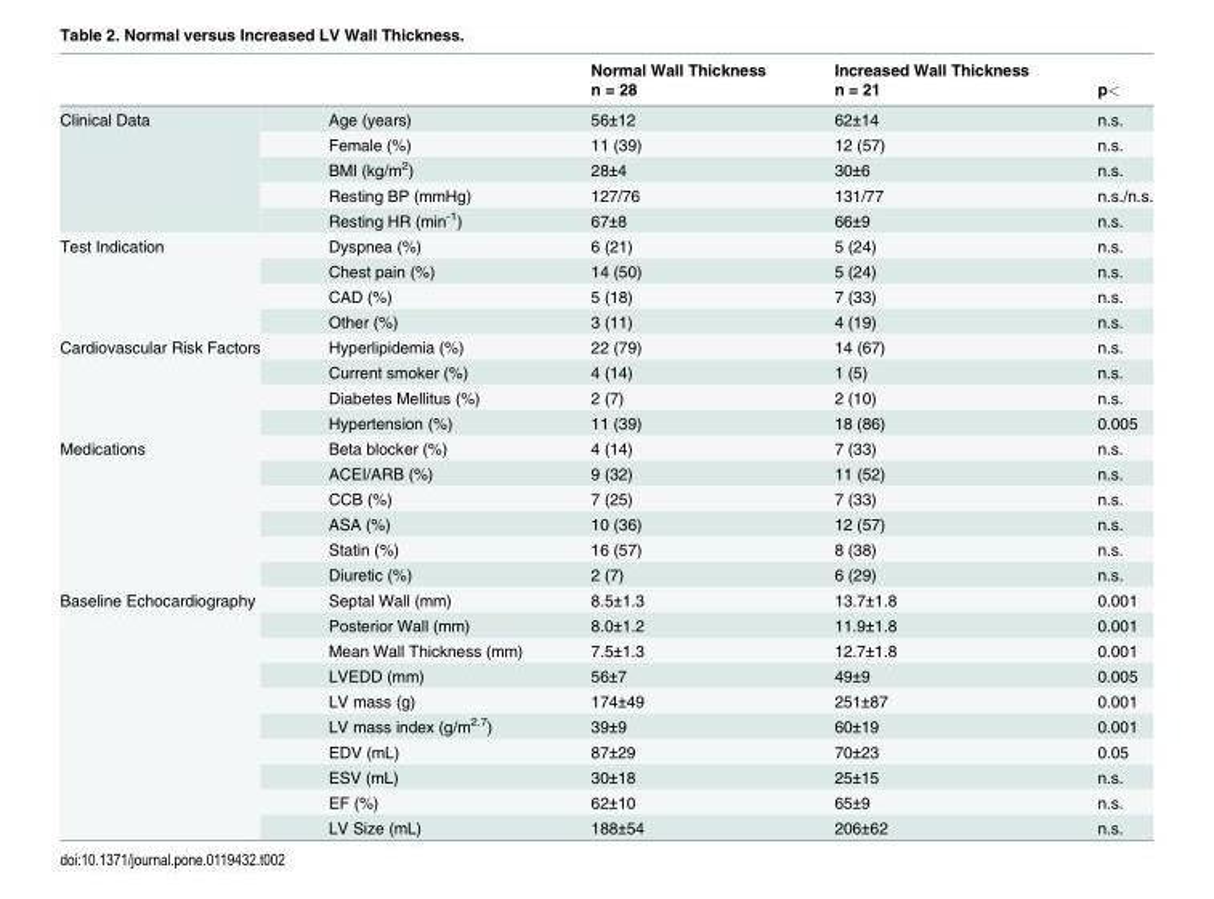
<table><thead><tr><td rowspan="2"></td><td rowspan="2"></td><td rowspan="2">Normal Wall Thickness n = 28</td><td rowspan="2">Increased Wall Thickness n = 21</td><td rowspan="2">p&lt;</td></tr><tr></tr></thead><tbody><tr><td rowspan="5">Clinical Data</td><td>Age (years)</td><td>56±12</td><td>62±14</td><td>n.s.</td></tr><tr><td>Female (%)</td><td>11 (39)</td><td>12 (57)</td><td>n.s.</td></tr><tr><td>BMI (kg/m<sup>2</sup>)</td><td>28±4</td><td>30±6</td><td>n.s.</td></tr><tr><td>Resting BP (mmHg)</td><td>127/76</td><td>131/77</td><td>n.s./n.s.</td></tr><tr><td>Resting HR (min<sup>-1</sup>)</td><td>67±8</td><td>66±9</td><td>n.s.</td></tr><tr><td rowspan="4">Test Indication</td><td>Dyspnea (%)</td><td>6 (21)</td><td>5 (24)</td><td>n.s.</td></tr><tr><td>Chest pain (%)</td><td>14 (50)</td><td>5 (24)</td><td>n.s.</td></tr><tr><td>CAD (%)</td><td>5 (18)</td><td>7 (33)</td><td>n.s.</td></tr><tr><td>Other (%)</td><td>3 (11)</td><td>4 (19)</td><td>n.s.</td></tr><tr><td rowspan="4">Cardiovascular Risk Factors</td><td>Hyperlipidemia (%)</td><td>22 (79)</td><td>14 (67)</td><td>n.s.</td></tr><tr><td>Current smoker (%)</td><td>4 (14)</td><td>1 (5)</td><td>n.s.</td></tr><tr><td>Diabetes Mellitus (%)</td><td>2 (7)</td><td>2 (10)</td><td>n.s.</td></tr><tr><td>Hypertension (%)</td><td>11 (39)</td><td>18 (86)</td><td>0.005</td></tr><tr><td rowspan="6">Medications</td><td>Beta blocker (%)</td><td>4 (14)</td><td>7 (33)</td><td>n.s.</td></tr><tr><td>ACEI/ARB (%)</td><td>9 (32)</td><td>11 (52)</td><td>n.s.</td></tr><tr><td>CCB (%)</td><td>7 (25)</td><td>7 (33)</td><td>n.s.</td></tr><tr><td>ASA (%)</td><td>10 (36)</td><td>12 (57)</td><td>n.s.</td></tr><tr><td>Statin (%)</td><td>16 (57)</td><td>8 (38)</td><td>n.s.</td></tr><tr><td>Diuretic (%)</td><td>2 (7)</td><td>6 (29)</td><td>n.s.</td></tr><tr><td rowspan="10">Baseline Echocardiography</td><td>Septal Wall (mm)</td><td>8.5±1.3</td><td>13.7±1.8</td><td>0.001</td></tr><tr><td>Posterior Wall (mm)</td><td>8.0±1.2</td><td>11.9±1.8</td><td>0.001</td></tr><tr><td>Mean Wall Thickness (mm)</td><td>7.5±1.3</td><td>12.7±1.8</td><td>0.001</td></tr><tr><td>LVEDD (mm)</td><td>56±7</td><td>49±9</td><td>0.005</td></tr><tr><td>LV mass (g)</td><td>174±49</td><td>251±87</td><td>0.001</td></tr><tr><td>LV mass index (g/m<sup>2.7</sup>)</td><td>39±9</td><td>60±19</td><td>0.001</td></tr><tr><td>EDV (mL)</td><td>87±29</td><td>70±23</td><td>0.05</td></tr><tr><td>ESV (mL)</td><td>30±18</td><td>25±15</td><td>n.s.</td></tr><tr><td>EF (%)</td><td>62±10</td><td>65±9</td><td>n.s.</td></tr><tr><td>LV Size (mL)</td><td>188±54</td><td>206±62</td><td>n.s.</td></tr></tbody></table>